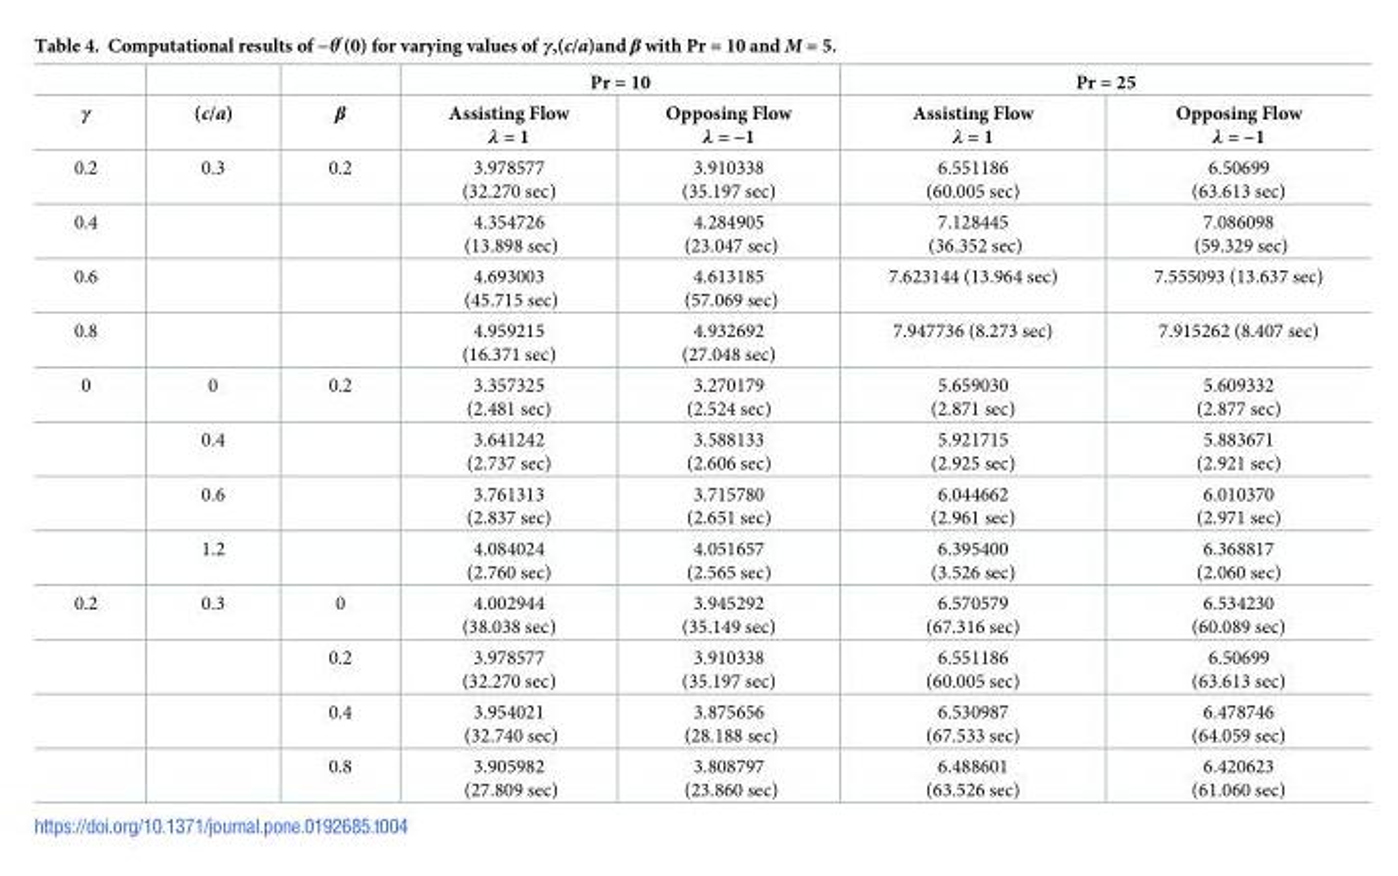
<table><thead><tr><td rowspan="2">γ</td><td rowspan="2">(c/a)</td><td rowspan="2">β</td><td colspan="2">Pr = 10</td><td colspan="2">Pr = 25</td></tr><tr><td>Assisting Flow λ = 1</td><td>Opposing Flow λ = −1</td><td>Assisting Flow λ = 1</td><td>Opposing Flow λ = −1</td></tr></thead><tbody><tr><td>0.2</td><td>0.3</td><td>0.2</td><td>3.978577 (32.270 sec)</td><td>3.910338 (35.197 sec)</td><td>6.551186 (60.005 sec)</td><td>6.50699 (63.613 sec)</td></tr><tr><td>0.4</td><td></td><td></td><td>4.354726 (13.898 sec)</td><td>4.284905 (23.047 sec)</td><td>7.128445 (36.352 sec)</td><td>7.086098 (59.329 sec)</td></tr><tr><td>0.6</td><td></td><td></td><td>4.693003 (45.715 sec)</td><td>4.613185 (57.069 sec)</td><td>7.623144 (13.964 sec)</td><td>7.555093 (13.637 sec)</td></tr><tr><td>0.8</td><td></td><td></td><td>4.959215 (16.371 sec)</td><td>4.932692 (27.048 sec)</td><td>7.947736 (8.273 sec)</td><td>7.915262 (8.407 sec)</td></tr><tr><td rowspan="4">0</td><td>0</td><td>0.2</td><td>3.357325 (2.481 sec)</td><td>3.270179 (2.524 sec)</td><td>5.659030 (2.871 sec)</td><td>5.609332 (2.877 sec)</td></tr><tr><td>0.4</td><td></td><td>3.641242 (2.737 sec)</td><td>3.588133 (2.606 sec)</td><td>5.921715 (2.925 sec)</td><td>5.883671 (2.921 sec)</td></tr><tr><td>0.6</td><td></td><td>3.761313 (2.837 sec)</td><td>3.715780 (2.651 sec)</td><td>6.044662 (2.961 sec)</td><td>6.010370 (2.971 sec)</td></tr><tr><td>1.2</td><td></td><td>4.084024 (2.760 sec)</td><td>4.051657 (2.565 sec)</td><td>6.395400 (3.526 sec)</td><td>6.368817 (2.060 sec)</td></tr><tr><td rowspan="4">0.2</td><td>0.3</td><td>0</td><td>4.002944 (38.038 sec)</td><td>3.945292 (35.149 sec)</td><td>6.570579 (67.316 sec)</td><td>6.534230 (60.089 sec)</td></tr><tr><td></td><td>0.2</td><td>3.978577 (32.270 sec)</td><td>3.910338 (35.197 sec)</td><td>6.551186 (60.005 sec)</td><td>6.50699 (63.613 sec)</td></tr><tr><td></td><td>0.4</td><td>3.954021 (32.740 sec)</td><td>3.875656 (28.188 sec)</td><td>6.530987 (67.533 sec)</td><td>6.478746 (64.059 sec)</td></tr><tr><td></td><td>0.8</td><td>3.905982 (27.809 sec)</td><td>3.808797 (23.860 sec)</td><td>6.488601 (63.526 sec)</td><td>6.420623 (61.060 sec)</td></tr></tbody></table>